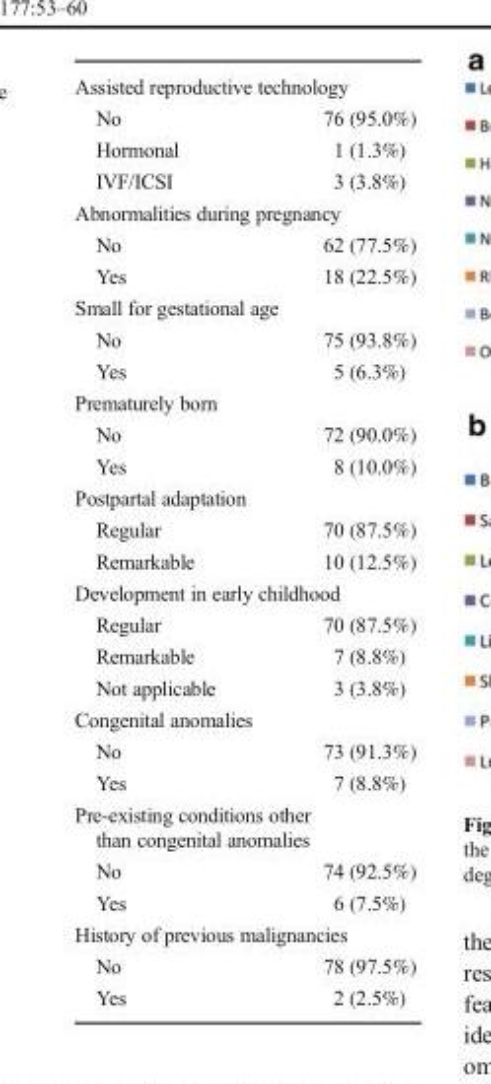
<table><tbody><tr><td colspan="2">Assisted reproductive technology</td></tr><tr><td>No</td><td>76 (95.0%)</td></tr><tr><td>Hormonal</td><td>1 (1.3%)</td></tr><tr><td>IVF/ICSI</td><td>3 (3.8%)</td></tr><tr><td colspan="2">Abnormalities during pregnancy</td></tr><tr><td>No</td><td>62 (77.5%)</td></tr><tr><td>Yes</td><td>18 (22.5%)</td></tr><tr><td colspan="2">Small for gestational age</td></tr><tr><td>No</td><td>75 (93.8%)</td></tr><tr><td>Yes</td><td>5 (6.3%)</td></tr><tr><td colspan="2">Prematurely born</td></tr><tr><td>No</td><td>72 (90.0%)</td></tr><tr><td>Yes</td><td>8 (10.0%)</td></tr><tr><td colspan="2">Postpartal adaptation</td></tr><tr><td>Regular</td><td>70 (87.5%)</td></tr><tr><td>Remarkable</td><td>10 (12.5%)</td></tr><tr><td colspan="2">Development in early childhood</td></tr><tr><td>Regular</td><td>70 (87.5%)</td></tr><tr><td>Remarkable</td><td>7 (8.8%)</td></tr><tr><td>Not applicable</td><td>3 (3.8%)</td></tr><tr><td colspan="2">Congenital anomalies</td></tr><tr><td>No</td><td>73 (91.3%)</td></tr><tr><td>Yes</td><td>7 (8.8%)</td></tr><tr><td colspan="2">Pre-existing conditions other than congenital anomalies</td></tr><tr><td>No</td><td>74 (92.5%)</td></tr><tr><td>Yes</td><td>6 (7.5%)</td></tr><tr><td colspan="2">History of previous malignancies</td></tr><tr><td>No</td><td>78 (97.5%)</td></tr><tr><td>Yes</td><td>2 (2.5%)</td></tr></tbody></table>